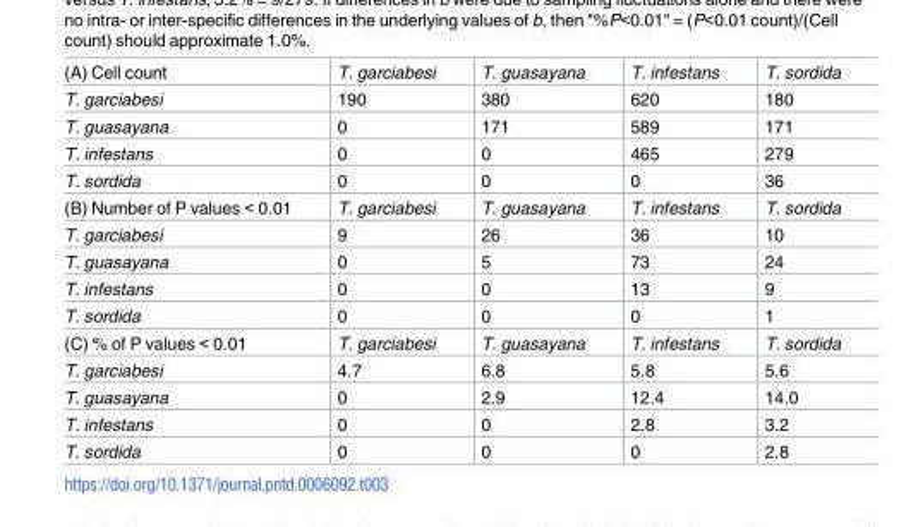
<table><tbody><tr><td>(A) Cell count</td><td>T. garciabesi</td><td>T. guasayana</td><td>T. infestans</td><td>T. sordida</td></tr><tr><td>T. garciabesi</td><td>190</td><td>380</td><td>620</td><td>180</td></tr><tr><td>T. guasayana</td><td>0</td><td>171</td><td>589</td><td>171</td></tr><tr><td>T. infestans</td><td>0</td><td>0</td><td>465</td><td>279</td></tr><tr><td>T. sordida</td><td>0</td><td>0</td><td>0</td><td>36</td></tr><tr><td>(B) Number of P values &lt; 0.01</td><td>T. garciabesi</td><td>T. guasayana</td><td>T. infestans</td><td>T. sordida</td></tr><tr><td>T. garciabesi</td><td>9</td><td>26</td><td>36</td><td>10</td></tr><tr><td>T. guasayana</td><td>0</td><td>5</td><td>73</td><td>24</td></tr><tr><td>T. infestans</td><td>0</td><td>0</td><td>13</td><td>9</td></tr><tr><td>T. sordida</td><td>0</td><td>0</td><td>0</td><td>1</td></tr><tr><td>(C) % of P values &lt; 0.01</td><td>T. garciabesi</td><td>T. guasayana</td><td>T. infestans</td><td>T. sordida</td></tr><tr><td>T. garciabesi</td><td>4.7</td><td>6.8</td><td>5.8</td><td>5.6</td></tr><tr><td>T. guasayana</td><td>0</td><td>2.9</td><td>12.4</td><td>14.0</td></tr><tr><td>T. infestans</td><td>0</td><td>0</td><td>2.8</td><td>3.2</td></tr><tr><td>T. sordida</td><td>0</td><td>0</td><td>0</td><td>2.8</td></tr></tbody></table>